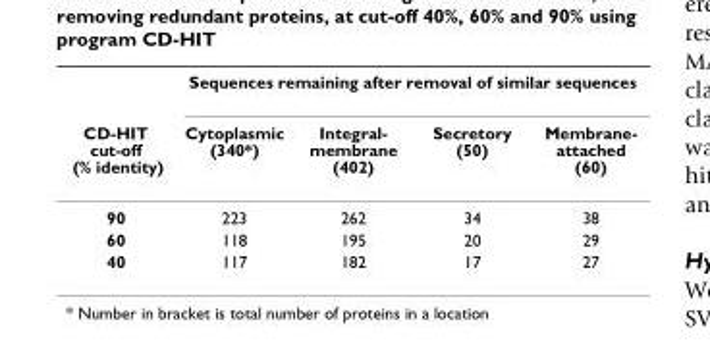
<table><thead><tr><td rowspan="2">CD-HIT cut-off (% identity)</td><td colspan="4">Sequences remaining after removal of similar sequences</td></tr><tr><td>Cytoplasmic (340*)</td><td>Integral- membrane (402)</td><td>Secretory (50)</td><td>Membrane- attached (60)</td></tr></thead><tbody><tr><td>90</td><td>223</td><td>262</td><td>34</td><td>38</td></tr><tr><td>60</td><td>118</td><td>195</td><td>20</td><td>29</td></tr><tr><td>40</td><td>117</td><td>182</td><td>17</td><td>27</td></tr></tbody></table>